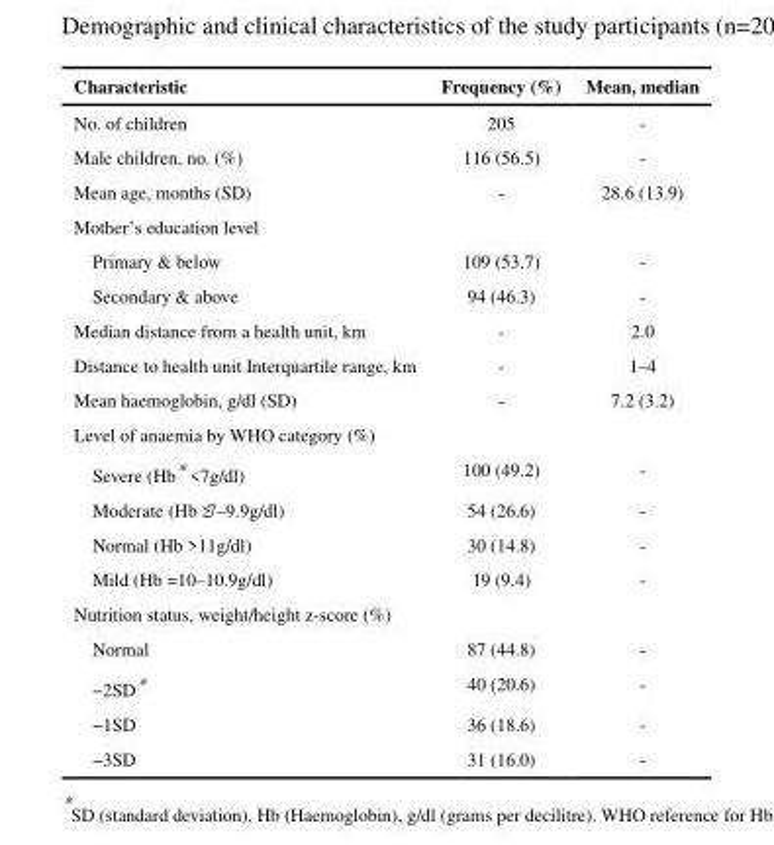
<table><thead><tr><td>Characteristic</td><td>Frequency (%)</td><td>Mean, median</td></tr></thead><tbody><tr><td>No. of children</td><td>205</td><td>-</td></tr><tr><td>Male children, no. (%)</td><td>116 (56.5)</td><td>-</td></tr><tr><td>Mean age, months (SD)</td><td>-</td><td>28.6 (13.9)</td></tr><tr><td colspan="3">Mother’s education level</td></tr><tr><td>Primary &amp; below</td><td>109 (53.7)</td><td>-</td></tr><tr><td>Secondary &amp; above</td><td>94 (46.3)</td><td>-</td></tr><tr><td>Median distance from a health unit, km</td><td>-</td><td>2.0</td></tr><tr><td>Distance to health unit Interquartile range, km</td><td>-</td><td>1–4</td></tr><tr><td>Mean haemoglobin, g/dl (SD)</td><td>-</td><td>7.2 (3.2)</td></tr><tr><td colspan="3">Level of anaemia by WHO category (%)</td></tr><tr><td>Severe (Hb* &lt;7g/dl)</td><td>100 (49.2)</td><td>-</td></tr><tr><td>Moderate (Hb≥7–9.9g/dl)</td><td>54 (26.6)</td><td>-</td></tr><tr><td>Normal (Hb &gt;11g/dl)</td><td>30 (14.8)</td><td>-</td></tr><tr><td>Mild (Hb =10–10.9g/dl)</td><td>19 (9.4)</td><td>-</td></tr><tr><td colspan="3">Nutrition status, weight/height z-score (%)</td></tr><tr><td>Normal</td><td>87 (44.8)</td><td>-</td></tr><tr><td>−2SD*</td><td>40 (20.6)</td><td>-</td></tr><tr><td>−1SD</td><td>36 (18.6)</td><td>-</td></tr><tr><td>−3SD</td><td>31 (16.0)</td><td>-</td></tr></tbody></table>